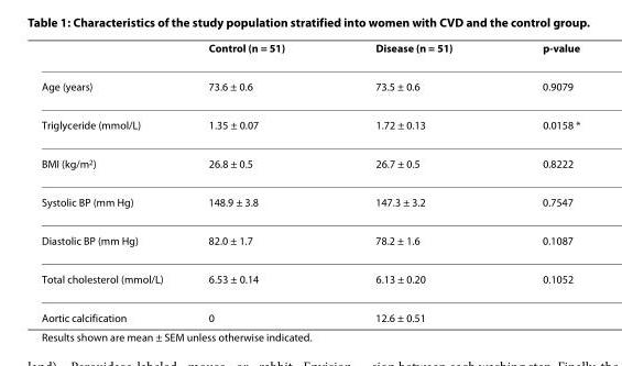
<table><thead><tr><td></td><td>Control (n = 51)</td><td>Disease (n = 51)</td><td>p-value</td></tr></thead><tbody><tr><td>Age (years)</td><td>73.6 ± 0.6</td><td>73.5 ± 0.6</td><td>0.9079</td></tr><tr><td>Triglyceride (mmol/L)</td><td>1.35 ± 0.07</td><td>1.72 ± 0.13</td><td>0.0158 *</td></tr><tr><td>BMI (kg/m<sup>2</sup>)</td><td>26.8 ± 0.5</td><td>26.7 ± 0.5</td><td>0.8222</td></tr><tr><td>Systolic BP (mm Hg)</td><td>148.9 ± 3.8</td><td>147.3 ± 3.2</td><td>0.7547</td></tr><tr><td>Diastolic BP (mm Hg)</td><td>82.0 ± 1.7</td><td>78.2 ± 1.6</td><td>0.1087</td></tr><tr><td>Total cholesterol (mmol/L)</td><td>6.53 ± 0.14</td><td>6.13 ± 0.20</td><td>0.1052</td></tr><tr><td>Aortic calcification</td><td>0</td><td>12.6 ± 0.51</td><td></td></tr></tbody></table>